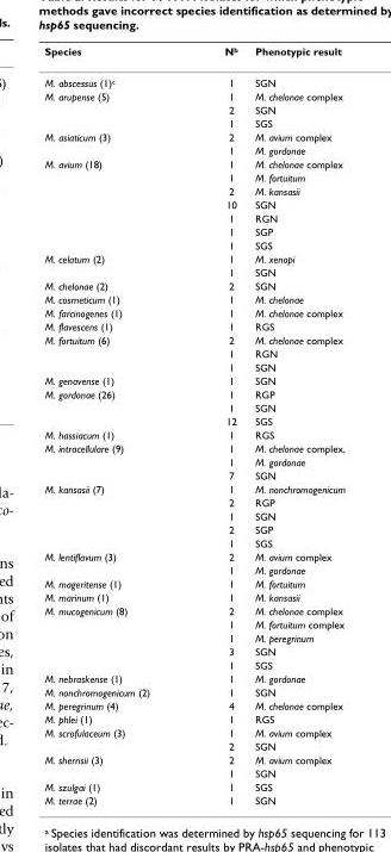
<table><thead><tr><td>Species</td><td>N<sup>b</sup></td><td>Phenotypic result</td></tr></thead><tbody><tr><td>M. abscessus (1)<sup>c</sup></td><td>1</td><td>SGN</td></tr><tr><td rowspan="3">M. arupense (5)</td><td>1</td><td>M. chelonae complex</td></tr><tr><td>2</td><td>SGN</td></tr><tr><td>1</td><td>SGS</td></tr><tr><td rowspan="2">M. asiaticum (3)</td><td>2</td><td>M. avium complex</td></tr><tr><td>1</td><td>M. gordonae</td></tr><tr><td rowspan="7">M. avium (18)</td><td>1</td><td>M. chelonae complex</td></tr><tr><td>1</td><td>M. fortuitum</td></tr><tr><td>2</td><td>M. kansasii</td></tr><tr><td>10</td><td>SGN</td></tr><tr><td>1</td><td>RGN</td></tr><tr><td>1</td><td>SGP</td></tr><tr><td>1</td><td>SGS</td></tr><tr><td rowspan="2">M. celatum (2)</td><td>1</td><td>M. xenopi</td></tr><tr><td>1</td><td>SGN</td></tr><tr><td>M. chelonae (2)</td><td>2</td><td>SGN</td></tr><tr><td>M. cosmeticum (1)</td><td>1</td><td>M. chelonae</td></tr><tr><td>M. farcinogenes (1)</td><td>1</td><td>M. chelonae complex</td></tr><tr><td>M. flavescens (1)</td><td>1</td><td>RGS</td></tr><tr><td rowspan="3">M. fortuitum (6)</td><td>2</td><td>M. chelonae complex</td></tr><tr><td>1</td><td>RGN</td></tr><tr><td>1</td><td>SGN</td></tr><tr><td>M. genavense (1)</td><td>1</td><td>SGN</td></tr><tr><td rowspan="3">M. gordonae (26)</td><td>1</td><td>RGP</td></tr><tr><td>1</td><td>SGN</td></tr><tr><td>12</td><td>SGS</td></tr><tr><td>M. hassiacum (1)</td><td>1</td><td>RGS</td></tr><tr><td rowspan="3">M. intracellulare (9)</td><td>1</td><td>M. chelonae complex,</td></tr><tr><td>1</td><td>M. gordonae</td></tr><tr><td>7</td><td>SGN</td></tr><tr><td rowspan="5">M. kansasii (7)</td><td>1</td><td>M. nonchromogenicum</td></tr><tr><td>2</td><td>RGP</td></tr><tr><td>1</td><td>SGN</td></tr><tr><td>2</td><td>SGP</td></tr><tr><td>1</td><td>SGS</td></tr><tr><td rowspan="2">M. lentiflavum (3)</td><td>2</td><td>M. avium complex</td></tr><tr><td>1</td><td>M. gordonae</td></tr><tr><td>M. mageritense (1)</td><td>1</td><td>M. fortuitum</td></tr><tr><td>M. marinum (1)</td><td>1</td><td>M. kansasii</td></tr><tr><td rowspan="5">M. mucogenicum (8)</td><td>2</td><td>M. chelonae complex</td></tr><tr><td>1</td><td>M. fortuitum complex</td></tr><tr><td>1</td><td>M. peregrinum</td></tr><tr><td>3</td><td>SGN</td></tr><tr><td>1</td><td>SGS</td></tr><tr><td>M. nebraskense (1)</td><td>1</td><td>M. gordonae</td></tr><tr><td>M. nonchromogenicum (2)</td><td>1</td><td>SGN</td></tr><tr><td>M. peregrinum (4)</td><td>4</td><td>M. chelonae complex</td></tr><tr><td>M. phlei (1)</td><td>1</td><td>RGS</td></tr><tr><td rowspan="2">M. scrofulaceum (3)</td><td>1</td><td>M. avium complex</td></tr><tr><td>2</td><td>SGN</td></tr><tr><td rowspan="2">M. sherrisii (3)</td><td>2</td><td>M. avium complex</td></tr><tr><td>1</td><td>SGN</td></tr><tr><td>M. szulgai (1)</td><td>1</td><td>SGS</td></tr><tr><td>M. terrae (2)</td><td>1</td><td>SGN</td></tr></tbody></table>